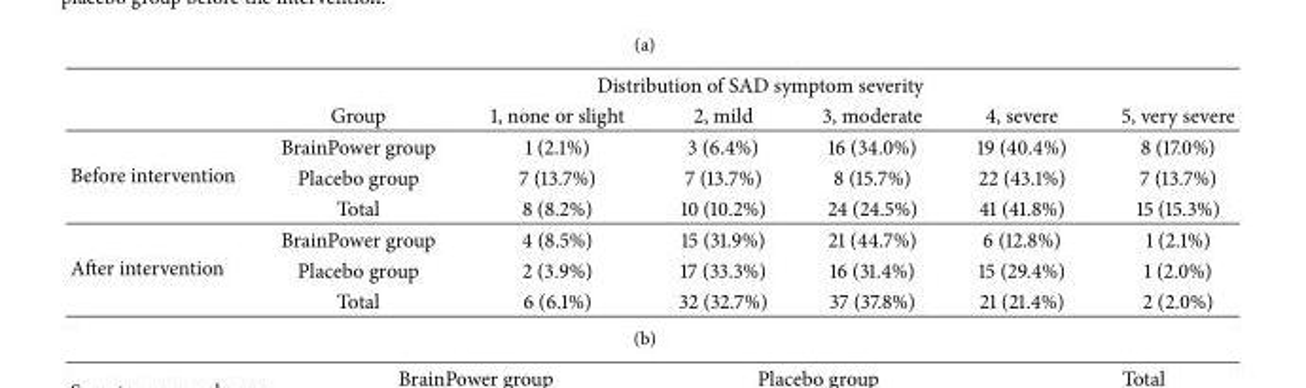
<table><thead><tr><td rowspan="2"></td><td colspan="6">Distribution of SAD symptom severity</td></tr><tr><td>Group</td><td>1, none or slight</td><td>2, mild</td><td>3, moderate</td><td>4, severe</td><td>5, very severe</td></tr></thead><tbody><tr><td rowspan="3">Before intervention</td><td>BrainPower group</td><td>1 (2.1%)</td><td>3 (6.4%)</td><td>16 (34.0%)</td><td>19 (40.4%)</td><td>8 (17.0%)</td></tr><tr><td>Placebo group</td><td>7 (13.7%)</td><td>7 (13.7%)</td><td>8 (15.7%)</td><td>22 (43.1%)</td><td>7 (13.7%)</td></tr><tr><td>Total</td><td>8 (8.2%)</td><td>10 (10.2%)</td><td>24 (24.5%)</td><td>41 (41.8%)</td><td>15 (15.3%)</td></tr><tr><td rowspan="3">After intervention</td><td>BrainPower group</td><td>4 (8.5%)</td><td>15 (31.9%)</td><td>21 (44.7%)</td><td>6 (12.8%)</td><td>1 (2.1%)</td></tr><tr><td>Placebo group</td><td>2 (3.9%)</td><td>17 (33.3%)</td><td>16 (31.4%)</td><td>15 (29.4%)</td><td>1 (2.0%)</td></tr><tr><td>Total</td><td>6 (6.1%)</td><td>32 (32.7%)</td><td>37 (37.8%)</td><td>21 (21.4%)</td><td>2 (2.0%)</td></tr></tbody></table>